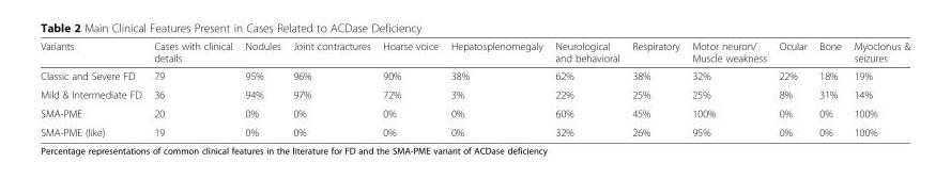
<table><thead><tr><td>Variants</td><td>Cases with clinical details</td><td>Nodules</td><td>Joint contractures</td><td>Hoarse voice</td><td>Hepatosplenomegaly</td><td>Neurological and behavioral</td><td>Respiratory</td><td>Motor neuron/ Muscle weakness</td><td>Ocular</td><td>Bone</td><td>Myoclonus &amp; seizures</td></tr></thead><tbody><tr><td>Classic and Severe FD</td><td>79</td><td>95%</td><td>96%</td><td>90%</td><td>38%</td><td>62%</td><td>38%</td><td>32%</td><td>22%</td><td>18%</td><td>19%</td></tr><tr><td>Mild &amp; Intermediate FD</td><td>36</td><td>94%</td><td>97%</td><td>72%</td><td>3%</td><td>22%</td><td>25%</td><td>25%</td><td>8%</td><td>31%</td><td>14%</td></tr><tr><td>SMA-PME</td><td>20</td><td>0%</td><td>0%</td><td>0%</td><td>0%</td><td>60%</td><td>45%</td><td>100%</td><td>0%</td><td>0%</td><td>100%</td></tr><tr><td>SMA-PME (like)</td><td>19</td><td>0%</td><td>0%</td><td>0%</td><td>0%</td><td>32%</td><td>26%</td><td>95%</td><td>0%</td><td>0%</td><td>100%</td></tr></tbody></table>